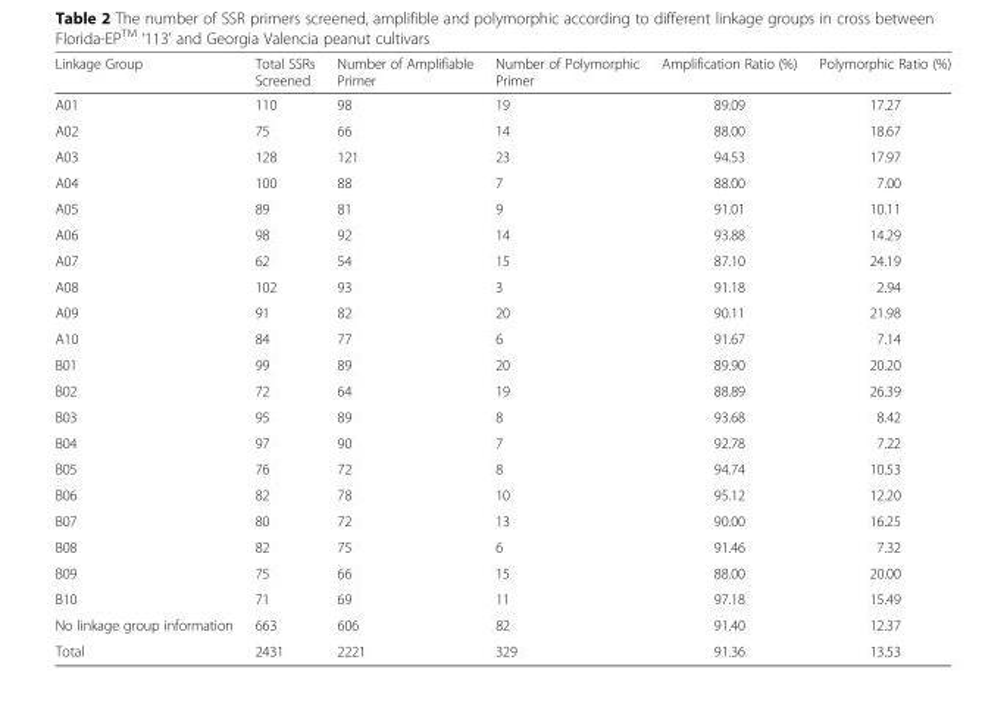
<table><thead><tr><td>Linkage Group</td><td>Total SSRs Screened</td><td>Number of Amplifiable Primer</td><td>Number of Polymorphic Primer</td><td>Amplification Ratio (%)</td><td>Polymorphic Ratio (%)</td></tr></thead><tbody><tr><td>A01</td><td>110</td><td>98</td><td>19</td><td>89.09</td><td>17.27</td></tr><tr><td>A02</td><td>75</td><td>66</td><td>14</td><td>88.00</td><td>18.67</td></tr><tr><td>A03</td><td>128</td><td>121</td><td>23</td><td>94.53</td><td>17.97</td></tr><tr><td>A04</td><td>100</td><td>88</td><td>7</td><td>88.00</td><td>7.00</td></tr><tr><td>A05</td><td>89</td><td>81</td><td>9</td><td>91.01</td><td>10.11</td></tr><tr><td>A06</td><td>98</td><td>92</td><td>14</td><td>93.88</td><td>14.29</td></tr><tr><td>A07</td><td>62</td><td>54</td><td>15</td><td>87.10</td><td>24.19</td></tr><tr><td>A08</td><td>102</td><td>93</td><td>3</td><td>91.18</td><td>2.94</td></tr><tr><td>A09</td><td>91</td><td>82</td><td>20</td><td>90.11</td><td>21.98</td></tr><tr><td>A10</td><td>84</td><td>77</td><td>6</td><td>91.67</td><td>7.14</td></tr><tr><td>B01</td><td>99</td><td>89</td><td>20</td><td>89.90</td><td>20.20</td></tr><tr><td>B02</td><td>72</td><td>64</td><td>19</td><td>88.89</td><td>26.39</td></tr><tr><td>B03</td><td>95</td><td>89</td><td>8</td><td>93.68</td><td>8.42</td></tr><tr><td>B04</td><td>97</td><td>90</td><td>7</td><td>92.78</td><td>7.22</td></tr><tr><td>B05</td><td>76</td><td>72</td><td>8</td><td>94.74</td><td>10.53</td></tr><tr><td>B06</td><td>82</td><td>78</td><td>10</td><td>95.12</td><td>12.20</td></tr><tr><td>B07</td><td>80</td><td>72</td><td>13</td><td>90.00</td><td>16.25</td></tr><tr><td>B08</td><td>82</td><td>75</td><td>6</td><td>91.46</td><td>7.32</td></tr><tr><td>B09</td><td>75</td><td>66</td><td>15</td><td>88.00</td><td>20.00</td></tr><tr><td>B10</td><td>71</td><td>69</td><td>11</td><td>97.18</td><td>15.49</td></tr><tr><td>No linkage group information</td><td>663</td><td>606</td><td>82</td><td>91.40</td><td>12.37</td></tr><tr><td>Total</td><td>2431</td><td>2221</td><td>329</td><td>91.36</td><td>13.53</td></tr></tbody></table>